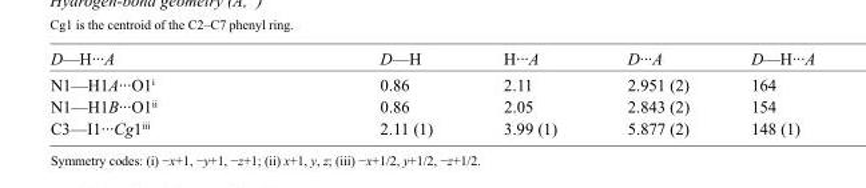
<table><tbody><tr><td>D—H···A</td><td>D—H</td><td>H···A</td><td>D···A</td><td>D—H···A</td></tr><tr><td>N1—H1A···O1<sup>i</sup></td><td>0.86</td><td>2.11</td><td>2.951 (2)</td><td>164</td></tr><tr><td>N1—H1B···O1<sup>ii</sup></td><td>0.86</td><td>2.05</td><td>2.843 (2)</td><td>154</td></tr><tr><td>C3—I1···Cg1<sup>iii</sup></td><td>2.11 (1)</td><td>3.99 (1)</td><td>5.877 (2)</td><td>148 (1)</td></tr></tbody></table>